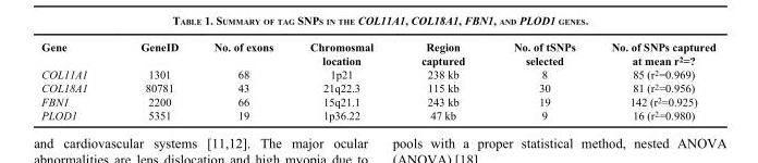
<table><thead><tr><td>Gene</td><td>GeneID</td><td>No. of exons</td><td>Chromosmal location</td><td>Region captured</td><td>No. of tSNPs selected</td><td>No. of SNPs captured at mean r<sup>2</sup>=?</td></tr></thead><tbody><tr><td>COL11A1</td><td>1301</td><td>68</td><td>1p21</td><td>238 kb</td><td>8</td><td>85 (r<sup>2</sup>=0.969)</td></tr><tr><td>COL18A1</td><td>80781</td><td>43</td><td>21q22.3</td><td>115 kb</td><td>30</td><td>81 (r<sup>2</sup>=0.956)</td></tr><tr><td>FBN1</td><td>2200</td><td>66</td><td>15q21.1</td><td>243 kb</td><td>19</td><td>142 (r<sup>2</sup>=0.925)</td></tr><tr><td>PLOD1</td><td>5351</td><td>19</td><td>1p36.22</td><td>47 kb</td><td>9</td><td>16 (r<sup>2</sup>=0.980)</td></tr></tbody></table>